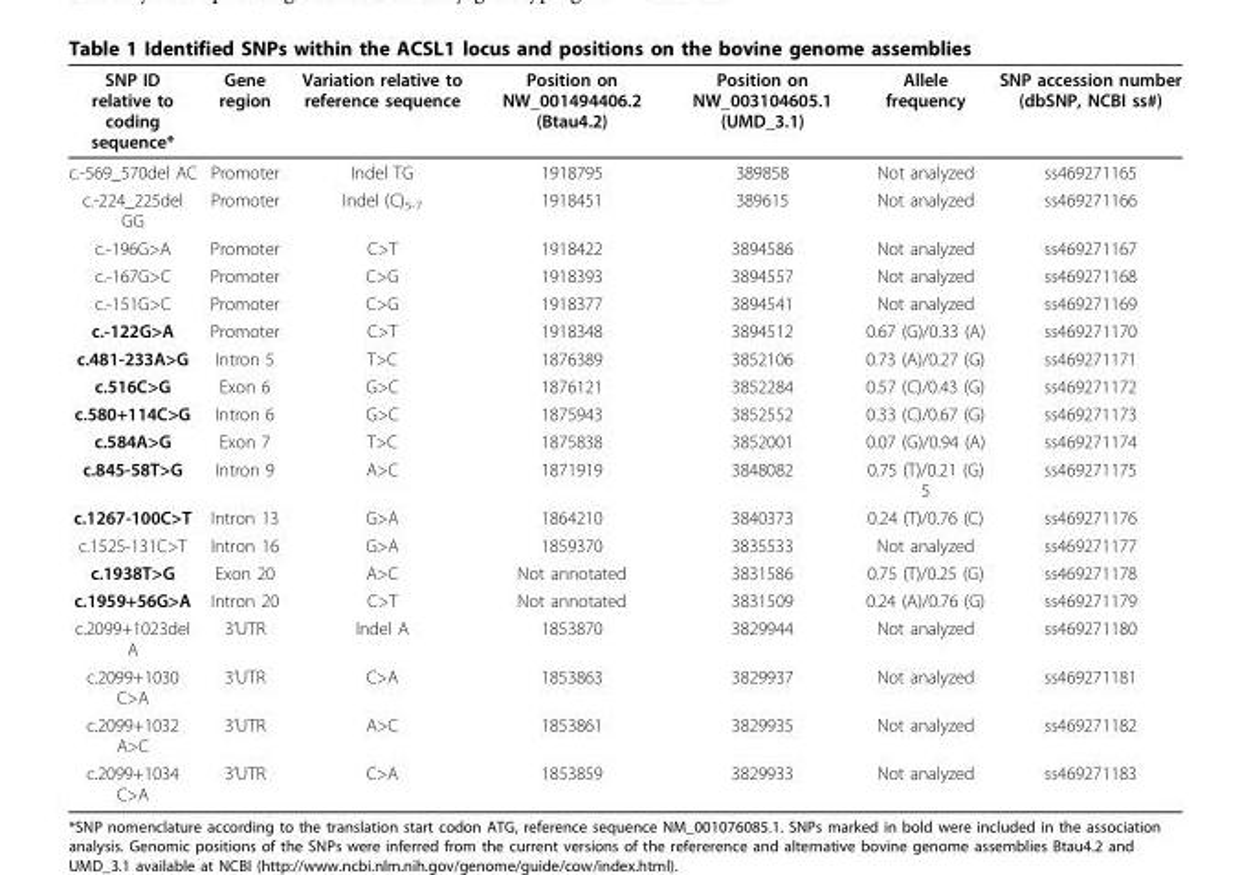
<table><thead><tr><td>SNP ID relative to coding sequence*</td><td>Gene region</td><td>Variation relative to reference sequence</td><td>Position on NW_001494406.2 (Btau4.2)</td><td>Position on NW_003104605.1 (UMD_3.1)</td><td>Allele frequency</td><td>SNP accession number (dbSNP, NCBI ss#)</td></tr></thead><tbody><tr><td>c.-569_570del AC</td><td>Promoter</td><td>Indel TG</td><td>1918795</td><td>389858</td><td>Not analyzed</td><td>ss469271165</td></tr><tr><td>c.-224_225del GG</td><td>Promoter</td><td>Indel (C)<sub>5-7</sub></td><td>1918451</td><td>389615</td><td>Not analyzed</td><td>ss469271166</td></tr><tr><td>c.-196G&gt;A</td><td>Promoter</td><td>C&gt;T</td><td>1918422</td><td>3894586</td><td>Not analyzed</td><td>ss469271167</td></tr><tr><td>c.-167G&gt;C</td><td>Promoter</td><td>C&gt;G</td><td>1918393</td><td>3894557</td><td>Not analyzed</td><td>ss469271168</td></tr><tr><td>c.-151G&gt;C</td><td>Promoter</td><td>C&gt;G</td><td>1918377</td><td>3894541</td><td>Not analyzed</td><td>ss469271169</td></tr><tr><td>c.-122G&gt;A</td><td>Promoter</td><td>C&gt;T</td><td>1918348</td><td>3894512</td><td>0.67 (G)/0.33 (A)</td><td>ss469271170</td></tr><tr><td>c.481-233A&gt;G</td><td>Intron 5</td><td>T&gt;C</td><td>1876389</td><td>3852106</td><td>0.73 (A)/0.27 (G)</td><td>ss469271171</td></tr><tr><td>c.516C&gt;G</td><td>Exon 6</td><td>G&gt;C</td><td>1876121</td><td>3852284</td><td>0.57 (C)/0.43 (G)</td><td>ss469271172</td></tr><tr><td>c.580+114C&gt;G</td><td>Intron 6</td><td>G&gt;C</td><td>1875943</td><td>3852552</td><td>0.33 (C)/0.67 (G)</td><td>ss469271173</td></tr><tr><td>c.584A&gt;G</td><td>Exon 7</td><td>T&gt;C</td><td>1875838</td><td>3852001</td><td>0.07 (G)/0.94 (A)</td><td>ss469271174</td></tr><tr><td>c.845-58T&gt;G</td><td>Intron 9</td><td>A&gt;C</td><td>1871919</td><td>3848082</td><td>0.75 (T)/0.21 (G) 5</td><td>ss469271175</td></tr><tr><td>c.1267-100C&gt;T</td><td>Intron 13</td><td>G&gt;A</td><td>1864210</td><td>3840373</td><td>0.24 (T)/0.76 (C)</td><td>ss469271176</td></tr><tr><td>c.1525-131C&gt;T</td><td>Intron 16</td><td>G&gt;A</td><td>1859370</td><td>3835533</td><td>Not analyzed</td><td>ss469271177</td></tr><tr><td>c.1938T&gt;G</td><td>Exon 20</td><td>A&gt;C</td><td>Not annotated</td><td>3831586</td><td>0.75 (T)/0.25 (G)</td><td>ss469271178</td></tr><tr><td>c.1959+56G&gt;A</td><td>Intron 20</td><td>C&gt;T</td><td>Not annotated</td><td>3831509</td><td>0.24 (A)/0.76 (G)</td><td>ss469271179</td></tr><tr><td>c.2099+1023del A</td><td>3’UTR</td><td>Indel A</td><td>1853870</td><td>3829944</td><td>Not analyzed</td><td>ss469271180</td></tr><tr><td>c.2099+1030 C&gt;A</td><td>3’UTR</td><td>C&gt;A</td><td>1853863</td><td>3829937</td><td>Not analyzed</td><td>ss469271181</td></tr><tr><td>c.2099+1032 A&gt;C</td><td>3’UTR</td><td>A&gt;C</td><td>1853861</td><td>3829935</td><td>Not analyzed</td><td>ss469271182</td></tr><tr><td>c.2099+1034 C&gt;A</td><td>3’UTR</td><td>C&gt;A</td><td>1853859</td><td>3829933</td><td>Not analyzed</td><td>ss469271183</td></tr></tbody></table>